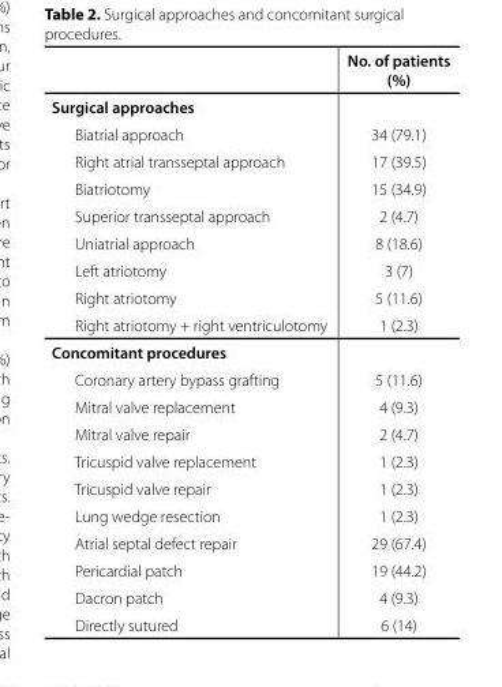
<table><thead><tr><td></td><td>No. of patients (%)</td></tr></thead><tbody><tr><td colspan="2">Surgical approaches</td></tr><tr><td>Biatrial approach</td><td>34 (79.1)</td></tr><tr><td>Right atrial transseptal approach</td><td>17 (39.5)</td></tr><tr><td>Biatriotomy</td><td>15 (34.9)</td></tr><tr><td>Superior transseptal approach</td><td>2 (4.7)</td></tr><tr><td>Uniatrial approach</td><td>8 (18.6)</td></tr><tr><td>Left atriotomy</td><td>3 (7)</td></tr><tr><td>Right atriotomy</td><td>5 (11.6)</td></tr><tr><td>Right atriotomy + right ventriculotomy</td><td>1 (2.3)</td></tr><tr><td colspan="2">Concomitant procedures</td></tr><tr><td>Coronary artery bypass grafting</td><td>5 (11.6)</td></tr><tr><td>Mitral valve replacement</td><td>4 (9.3)</td></tr><tr><td>Mitral valve repair</td><td>2 (4.7)</td></tr><tr><td>Tricuspid valve replacement</td><td>1 (2.3)</td></tr><tr><td>Tricuspid valve repair</td><td>1 (2.3)</td></tr><tr><td>Lung wedge resection</td><td>1 (2.3)</td></tr><tr><td>Atrial septal defect repair</td><td>29 (67.4)</td></tr><tr><td>Pericardial patch</td><td>19 (44.2)</td></tr><tr><td>Dacron patch</td><td>4 (9.3)</td></tr><tr><td>Directly sutured</td><td>6 (14)</td></tr></tbody></table>